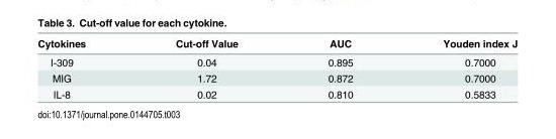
<table><thead><tr><td>Cytokines</td><td>Cut-off Value</td><td>AUC</td><td>Youden index J</td></tr></thead><tbody><tr><td>I-309</td><td>0.04</td><td>0.895</td><td>0.7000</td></tr><tr><td>MIG</td><td>1.72</td><td>0.872</td><td>0.7000</td></tr><tr><td>IL-8</td><td>0.02</td><td>0.810</td><td>0.5833</td></tr></tbody></table>